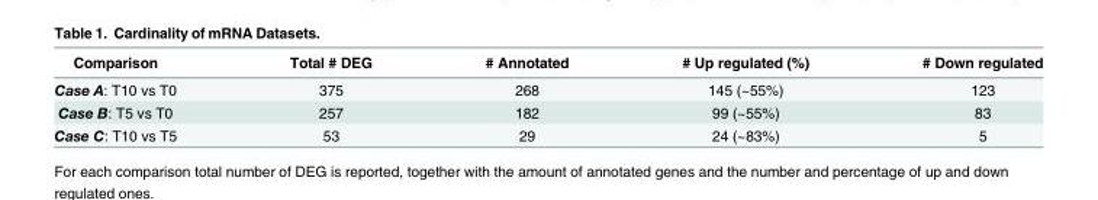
<table><thead><tr><td>Comparison</td><td>Total # DEG</td><td># Annotated</td><td># Up regulated (%)</td><td># Down regulated</td></tr></thead><tbody><tr><td>Case A: T10 vs T0</td><td>375</td><td>268</td><td>145 (~55%)</td><td>123</td></tr><tr><td>Case B: T5 vs T0</td><td>257</td><td>182</td><td>99 (~55%)</td><td>83</td></tr><tr><td>Case C: T10 vs T5</td><td>53</td><td>29</td><td>24 (~83%)</td><td>5</td></tr></tbody></table>